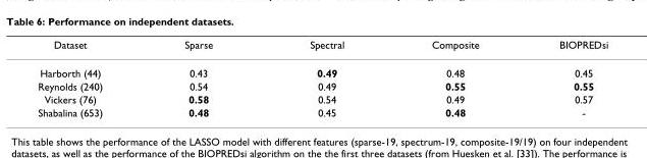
<table><thead><tr><td>Dataset</td><td>Sparse</td><td>Spectral</td><td>Composite</td><td>BIOPREDsi</td></tr></thead><tbody><tr><td>Harborth (44)</td><td>0.43</td><td>0.49</td><td>0.48</td><td>0.45</td></tr><tr><td>Reynolds (240)</td><td>0.54</td><td>0.49</td><td>0.55</td><td>0.55</td></tr><tr><td>Vickers (76)</td><td>0.58</td><td>0.54</td><td>0.49</td><td>0.57</td></tr><tr><td>Shabalina (653)</td><td>0.48</td><td>0.45</td><td>0.48</td><td>-</td></tr></tbody></table>